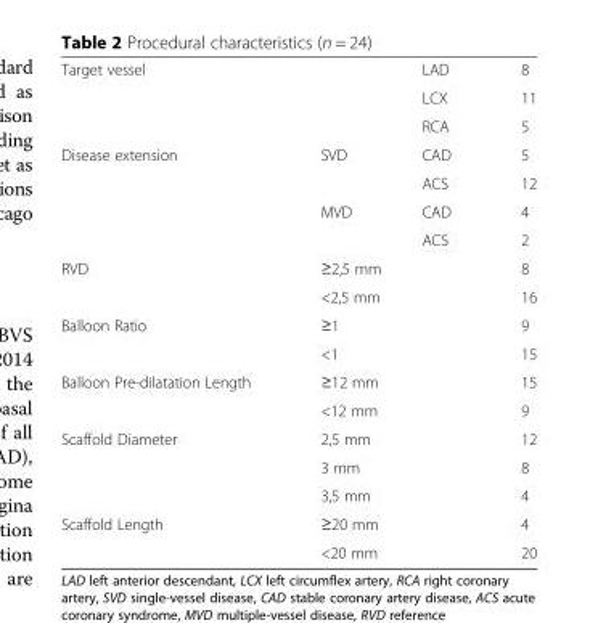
<table><tbody><tr><td rowspan="3">Target vessel</td><td></td><td>LAD</td><td>8</td></tr><tr><td></td><td>LCX</td><td>11</td></tr><tr><td></td><td>RCA</td><td>5</td></tr><tr><td rowspan="4">Disease extension</td><td rowspan="2">SVD</td><td>CAD</td><td>5</td></tr><tr><td>ACS</td><td>12</td></tr><tr><td rowspan="2">MVD</td><td>CAD</td><td>4</td></tr><tr><td>ACS</td><td>2</td></tr><tr><td rowspan="2">RVD</td><td colspan="2">≥2,5 mm</td><td>8</td></tr><tr><td colspan="2">&lt;2,5 mm</td><td>16</td></tr><tr><td rowspan="2">Balloon Ratio</td><td colspan="2">≥1</td><td>9</td></tr><tr><td colspan="2">&lt;1</td><td>15</td></tr><tr><td rowspan="2">Balloon Pre-dilatation Length</td><td colspan="2">≥12 mm</td><td>15</td></tr><tr><td colspan="2">&lt;12 mm</td><td>9</td></tr><tr><td rowspan="3">Scaffold Diameter</td><td colspan="2">2,5 mm</td><td>12</td></tr><tr><td colspan="2">3 mm</td><td>8</td></tr><tr><td colspan="2">3,5 mm</td><td>4</td></tr><tr><td rowspan="2">Scaffold Length</td><td colspan="2">≥20 mm</td><td>4</td></tr><tr><td colspan="2">&lt;20 mm</td><td>20</td></tr></tbody></table>